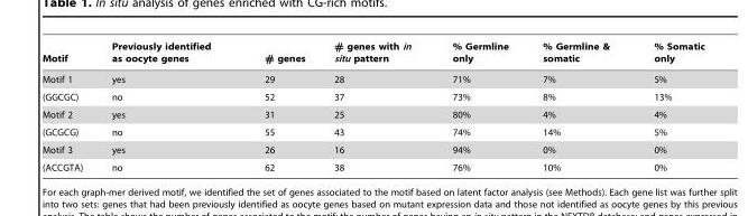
<table><thead><tr><td>Motif</td><td>Previously identified as oocyte genes</td><td># genes</td><td># genes with in situ pattern</td><td>% Germline only</td><td>% Germline &amp; somatic</td><td>% Somatic only</td></tr></thead><tbody><tr><td>Motif 1</td><td>yes</td><td>29</td><td>28</td><td>71%</td><td>7%</td><td>5%</td></tr><tr><td>(GGCGC)</td><td>no</td><td>52</td><td>37</td><td>73%</td><td>8%</td><td>13%</td></tr><tr><td>Motif 2</td><td>yes</td><td>31</td><td>25</td><td>80%</td><td>4%</td><td>4%</td></tr><tr><td>(GCGCG)</td><td>no</td><td>55</td><td>43</td><td>74%</td><td>14%</td><td>5%</td></tr><tr><td>Motif 3</td><td>yes</td><td>26</td><td>16</td><td>94%</td><td>0%</td><td>0%</td></tr><tr><td>(ACCGTA)</td><td>no</td><td>62</td><td>38</td><td>76%</td><td>10%</td><td>0%</td></tr></tbody></table>